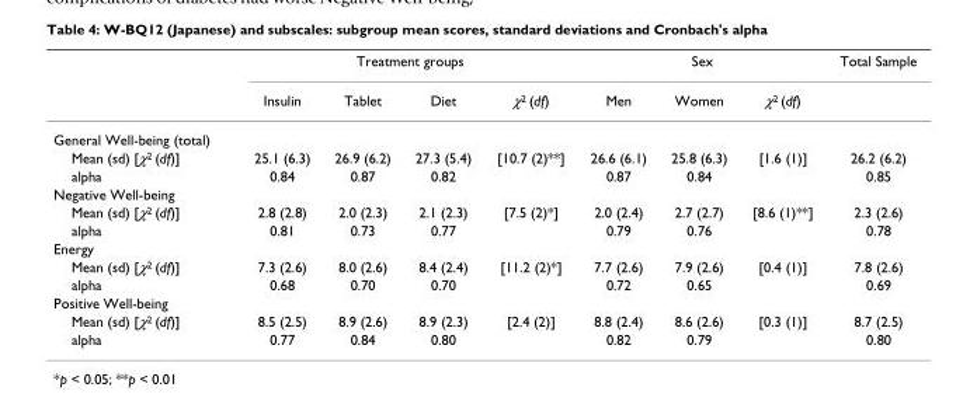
<table><thead><tr><td rowspan="2"></td><td colspan="4">Treatment groups</td><td colspan="3">Sex</td><td rowspan="2">Total Sample</td></tr><tr><td>Insulin</td><td>Tablet</td><td>Diet</td><td>χ<sup>2</sup> (df)</td><td>Men</td><td>Women</td><td>χ<sup>2</sup> (df)</td></tr></thead><tbody><tr><td colspan="9">General Well-being (total)</td></tr><tr><td>Mean (sd) [χ<sup>2</sup> (df)]</td><td>25.1 (6.3)</td><td>26.9 (6.2)</td><td>27.3 (5.4)</td><td>[10.7 (2)**]</td><td>26.6 (6.1)</td><td>25.8 (6.3)</td><td>[1.6 (1)]</td><td>26.2 (6.2)</td></tr><tr><td>alpha</td><td>0.84</td><td>0.87</td><td>0.82</td><td></td><td>0.87</td><td>0.84</td><td></td><td>0.85</td></tr><tr><td colspan="9">Negative Well-being</td></tr><tr><td>Mean (sd) [χ<sup>2</sup> (df)]</td><td>2.8 (2.8)</td><td>2.0 (2.3)</td><td>2.1 (2.3)</td><td>[7.5 (2)*]</td><td>2.0 (2.4)</td><td>2.7 (2.7)</td><td>[8.6 (1)**]</td><td>2.3 (2.6)</td></tr><tr><td>alpha</td><td>0.81</td><td>0.73</td><td>0.77</td><td></td><td>0.79</td><td>0.76</td><td></td><td>0.78</td></tr><tr><td colspan="9">Energy</td></tr><tr><td>Mean (sd) [χ<sup>2</sup> (df)]</td><td>7.3 (2.6)</td><td>8.0 (2.6)</td><td>8.4 (2.4)</td><td>[11.2 (2)*]</td><td>7.7 (2.6)</td><td>7.9 (2.6)</td><td>[0.4 (1)]</td><td>7.8 (2.6)</td></tr><tr><td>alpha</td><td>0.68</td><td>0.70</td><td>0.70</td><td></td><td>0.72</td><td>0.65</td><td></td><td>0.69</td></tr><tr><td colspan="9">Positive Well-being</td></tr><tr><td>Mean (sd) [χ<sup>2</sup> (df)]</td><td>8.5 (2.5)</td><td>8.9 (2.6)</td><td>8.9 (2.3)</td><td>[2.4 (2)]</td><td>8.8 (2.4)</td><td>8.6 (2.6)</td><td>[0.3 (1)]</td><td>8.7 (2.5)</td></tr><tr><td>alpha</td><td>0.77</td><td>0.84</td><td>0.80</td><td></td><td>0.82</td><td>0.79</td><td></td><td>0.80</td></tr></tbody></table>